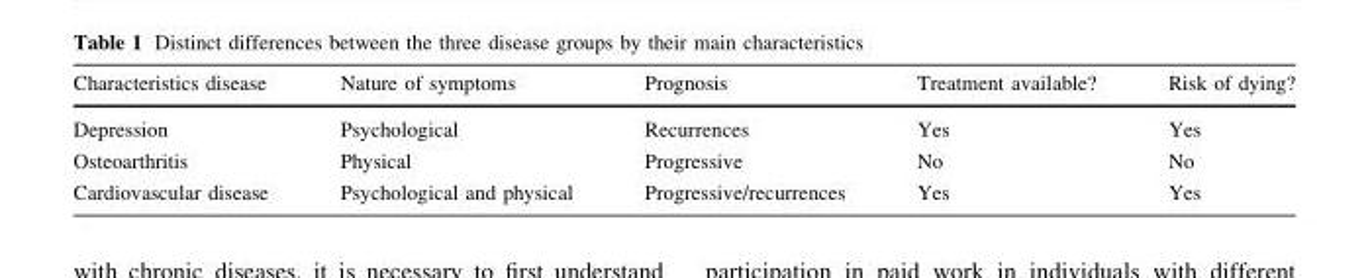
<table><thead><tr><td>Characteristics disease</td><td>Nature of symptoms</td><td>Prognosis</td><td>Treatment available?</td><td>Risk of dying?</td></tr></thead><tbody><tr><td>Depression</td><td>Psychological</td><td>Recurrences</td><td>Yes</td><td>Yes</td></tr><tr><td>Osteoarthritis</td><td>Physical</td><td>Progressive</td><td>No</td><td>No</td></tr><tr><td>Cardiovascular disease</td><td>Psychological and physical</td><td>Progressive/recurrences</td><td>Yes</td><td>Yes</td></tr></tbody></table>